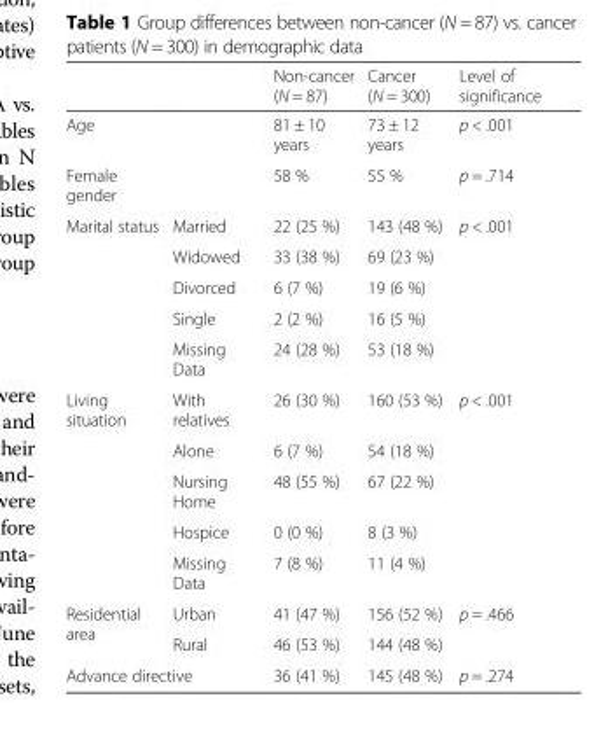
<table><thead><tr><td></td><td></td><td>Non-cancer (N = 87)</td><td>Cancer (N = 300)</td><td>Level of significance</td></tr></thead><tbody><tr><td>Age</td><td></td><td>81 ± 10 years</td><td>73 ± 12 years</td><td>p &lt; .001</td></tr><tr><td>Female gender</td><td></td><td>58 %</td><td>55 %</td><td>p = .714</td></tr><tr><td rowspan="5">Marital status</td><td>Married</td><td>22 (25 %)</td><td>143 (48 %)</td><td rowspan="5">p &lt; .001</td></tr><tr><td>Widowed</td><td>33 (38 %)</td><td>69 (23 %)</td></tr><tr><td>Divorced</td><td>6 (7 %)</td><td>19 (6 %)</td></tr><tr><td>Single</td><td>2 (2 %)</td><td>16 (5 %)</td></tr><tr><td>Missing Data</td><td>24 (28 %)</td><td>53 (18 %)</td></tr><tr><td rowspan="5">Living situation</td><td>With relatives</td><td>26 (30 %)</td><td>160 (53 %)</td><td rowspan="5">p &lt; .001</td></tr><tr><td>Alone</td><td>6 (7 %)</td><td>54 (18 %)</td></tr><tr><td>Nursing Home</td><td>48 (55 %)</td><td>67 (22 %)</td></tr><tr><td>Hospice</td><td>0 (0 %)</td><td>8 (3 %)</td></tr><tr><td>Missing Data</td><td>7 (8 %)</td><td>11 (4 %)</td></tr><tr><td rowspan="2">Residential area</td><td>Urban</td><td>41 (47 %)</td><td>156 (52 %)</td><td rowspan="2">p = .466</td></tr><tr><td>Rural</td><td>46 (53 %)</td><td>144 (48 %)</td></tr><tr><td colspan="2">Advance directive</td><td>36 (41 %)</td><td>145 (48 %)</td><td>p = .274</td></tr></tbody></table>